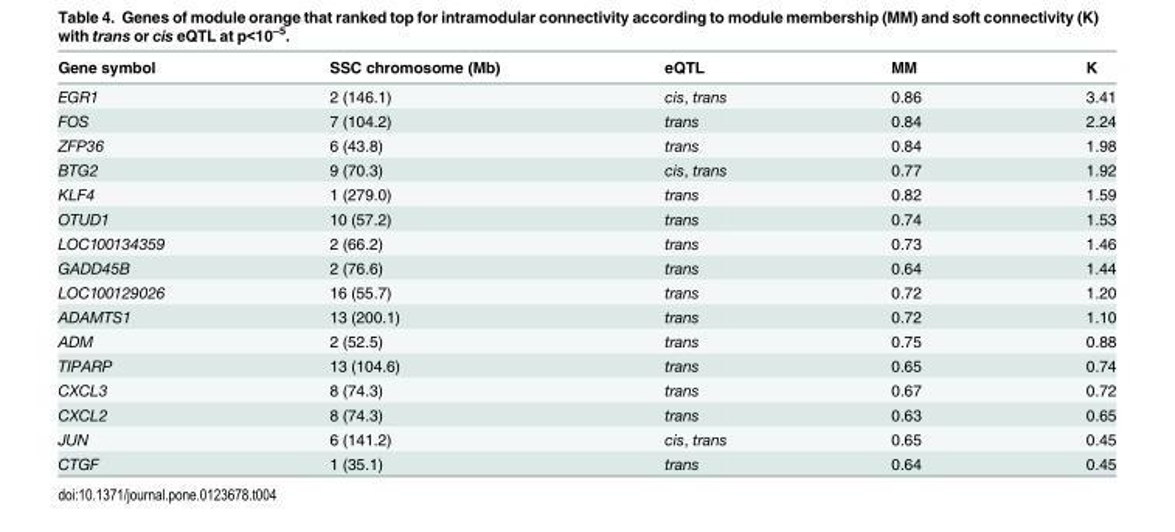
<table><thead><tr><td>Gene symbol</td><td>SSC chromosome (Mb)</td><td>eQTL</td><td>MM</td><td>K</td></tr></thead><tbody><tr><td>EGR1</td><td>2 (146.1)</td><td>cis, trans</td><td>0.86</td><td>3.41</td></tr><tr><td>FOS</td><td>7 (104.2)</td><td>trans</td><td>0.84</td><td>2.24</td></tr><tr><td>ZFP36</td><td>6 (43.8)</td><td>trans</td><td>0.84</td><td>1.98</td></tr><tr><td>BTG2</td><td>9 (70.3)</td><td>cis, trans</td><td>0.77</td><td>1.92</td></tr><tr><td>KLF4</td><td>1 (279.0)</td><td>trans</td><td>0.82</td><td>1.59</td></tr><tr><td>OTUD1</td><td>10 (57.2)</td><td>trans</td><td>0.74</td><td>1.53</td></tr><tr><td>LOC100134359</td><td>2 (66.2)</td><td>trans</td><td>0.73</td><td>1.46</td></tr><tr><td>GADD45B</td><td>2 (76.6)</td><td>trans</td><td>0.64</td><td>1.44</td></tr><tr><td>LOC100129026</td><td>16 (55.7)</td><td>trans</td><td>0.72</td><td>1.20</td></tr><tr><td>ADAMTS1</td><td>13 (200.1)</td><td>trans</td><td>0.72</td><td>1.10</td></tr><tr><td>ADM</td><td>2 (52.5)</td><td>trans</td><td>0.75</td><td>0.88</td></tr><tr><td>TIPARP</td><td>13 (104.6)</td><td>trans</td><td>0.65</td><td>0.74</td></tr><tr><td>CXCL3</td><td>8 (74.3)</td><td>trans</td><td>0.67</td><td>0.72</td></tr><tr><td>CXCL2</td><td>8 (74.3)</td><td>trans</td><td>0.63</td><td>0.65</td></tr><tr><td>JUN</td><td>6 (141.2)</td><td>cis, trans</td><td>0.65</td><td>0.45</td></tr><tr><td>CTGF</td><td>1 (35.1)</td><td>trans</td><td>0.64</td><td>0.45</td></tr></tbody></table>